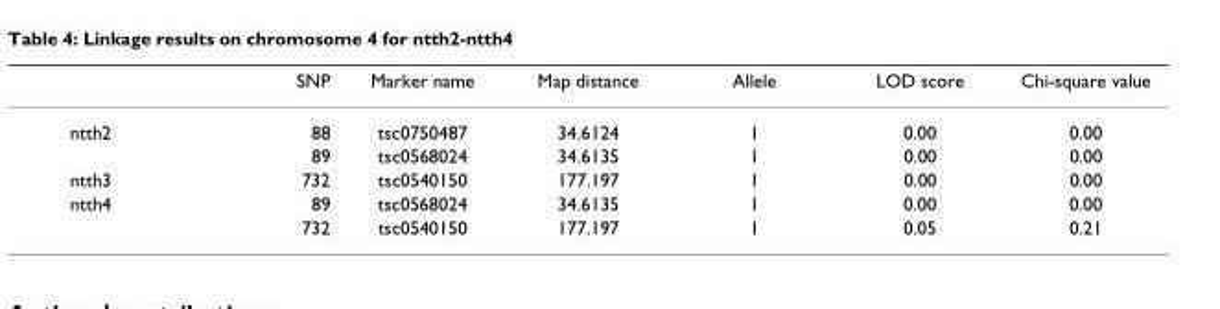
<table><thead><tr><td></td><td>SNP</td><td>Marker name</td><td>Map distance</td><td>Allele</td><td>LOD score</td><td>Chi-square value</td></tr></thead><tbody><tr><td rowspan="2">ntth2</td><td>88</td><td>tsc0750487</td><td>34.6124</td><td>1</td><td>0.00</td><td>0.00</td></tr><tr><td>89</td><td>tsc0568024</td><td>34.6135</td><td>1</td><td>0.00</td><td>0.00</td></tr><tr><td>ntth3</td><td>732</td><td>tsc0540150</td><td>177.197</td><td>1</td><td>0.00</td><td>0.00</td></tr><tr><td rowspan="2">ntth4</td><td>89</td><td>tsc0568024</td><td>34.6135</td><td>1</td><td>0.00</td><td>0.00</td></tr><tr><td>732</td><td>tsc0540150</td><td>177.197</td><td>1</td><td>0.05</td><td>0.21</td></tr></tbody></table>